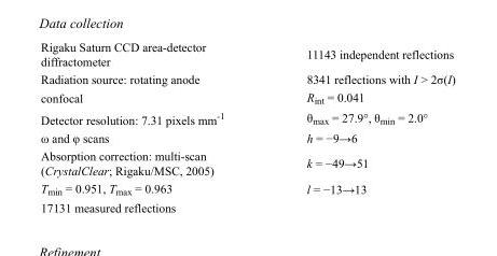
<table><tbody><tr><td>Rigaku Saturn CCD area-detector diffractometer</td><td>11143 independent reflections</td></tr><tr><td>Radiation source: rotating anode</td><td>8341 reflections with I &gt; 2σ(I)</td></tr><tr><td>confocal</td><td>R<sub>int</sub> = 0.041</td></tr><tr><td>Detector resolution: 7.31 pixels mm<sup>-1</sup></td><td>θ<sub>max</sub> = 27.9°, θ<sub>min</sub> = 2.0°</td></tr><tr><td>ω and φ scans</td><td>h = −9→6</td></tr><tr><td>Absorption correction: multi-scan (CrystalClear; Rigaku/MSC, 2005)</td><td>k = −49→51</td></tr><tr><td>T<sub>min</sub> = 0.951, T<sub>max</sub> = 0.963</td><td>l = −13→13</td></tr><tr><td>17131 measured reflections</td><td></td></tr></tbody></table>